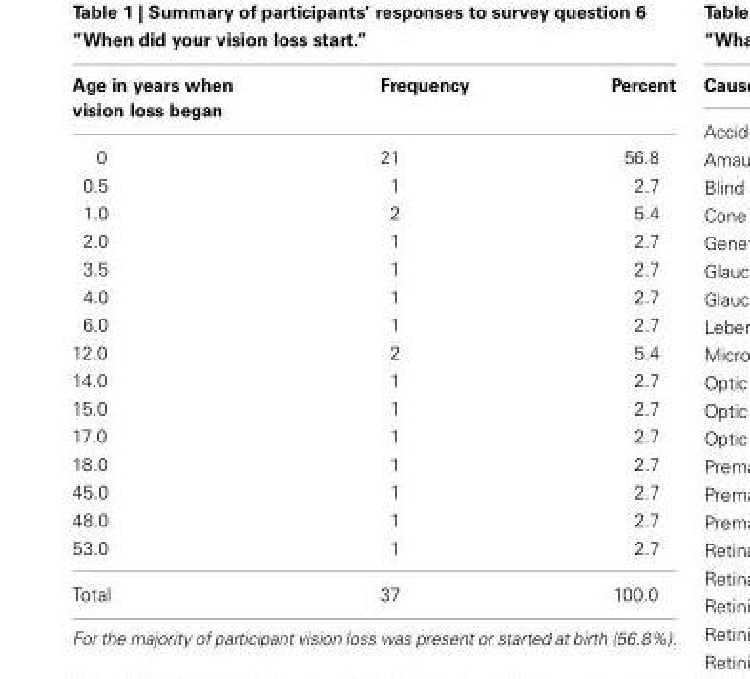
<table><thead><tr><td>Age in years when vision loss began</td><td>Frequency</td><td>Percent</td></tr></thead><tbody><tr><td>0</td><td>21</td><td>56.8</td></tr><tr><td>0.5</td><td>1</td><td>2.7</td></tr><tr><td>1.0</td><td>2</td><td>5.4</td></tr><tr><td>2.0</td><td>1</td><td>2.7</td></tr><tr><td>3.5</td><td>1</td><td>2.7</td></tr><tr><td>4.0</td><td>1</td><td>2.7</td></tr><tr><td>6.0</td><td>1</td><td>2.7</td></tr><tr><td>12.0</td><td>2</td><td>5.4</td></tr><tr><td>14.0</td><td>1</td><td>2.7</td></tr><tr><td>15.0</td><td>1</td><td>2.7</td></tr><tr><td>17.0</td><td>1</td><td>2.7</td></tr><tr><td>18.0</td><td>1</td><td>2.7</td></tr><tr><td>45.0</td><td>1</td><td>2.7</td></tr><tr><td>48.0</td><td>1</td><td>2.7</td></tr><tr><td>53.0</td><td>1</td><td>2.7</td></tr><tr><td>Total</td><td>37</td><td>100.0</td></tr></tbody></table>